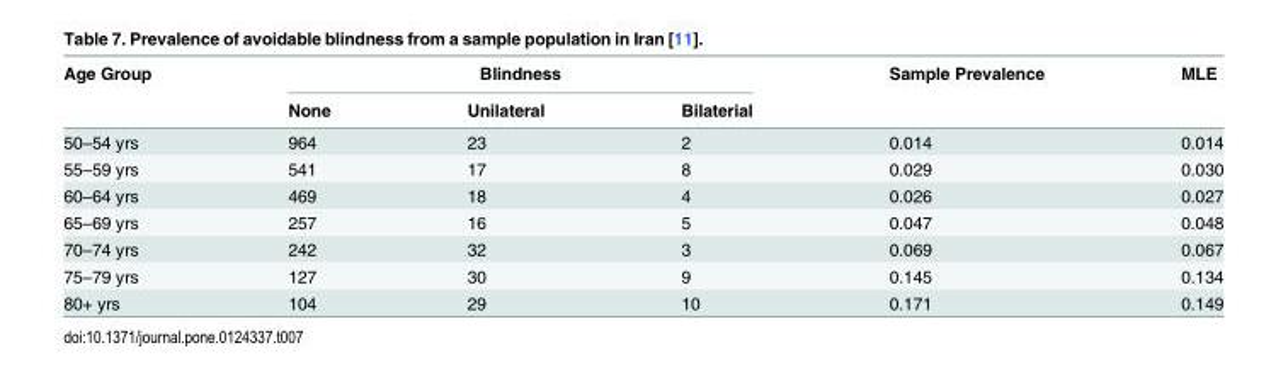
<table><thead><tr><td rowspan="2">Age Group</td><td colspan="3">Blindness</td><td rowspan="2">Sample Prevalence</td><td rowspan="2">MLE</td></tr><tr><td>None</td><td>Unilateral</td><td>Bilaterial</td></tr></thead><tbody><tr><td>50–54 yrs</td><td>964</td><td>23</td><td>2</td><td>0.014</td><td>0.014</td></tr><tr><td>55–59 yrs</td><td>541</td><td>17</td><td>8</td><td>0.029</td><td>0.030</td></tr><tr><td>60–64 yrs</td><td>469</td><td>18</td><td>4</td><td>0.026</td><td>0.027</td></tr><tr><td>65–69 yrs</td><td>257</td><td>16</td><td>5</td><td>0.047</td><td>0.048</td></tr><tr><td>70–74 yrs</td><td>242</td><td>32</td><td>3</td><td>0.069</td><td>0.067</td></tr><tr><td>75–79 yrs</td><td>127</td><td>30</td><td>9</td><td>0.145</td><td>0.134</td></tr><tr><td>80+ yrs</td><td>104</td><td>29</td><td>10</td><td>0.171</td><td>0.149</td></tr></tbody></table>